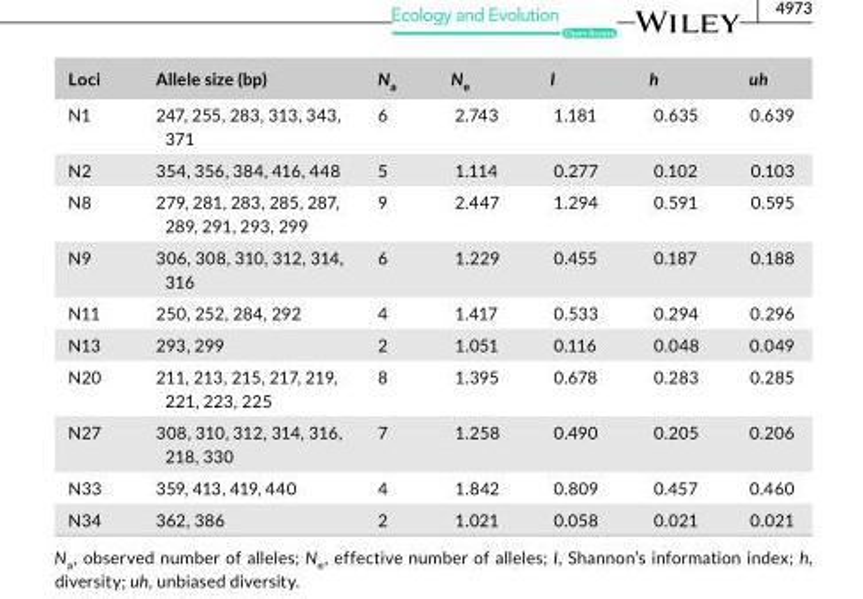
<table><thead><tr><td>Loci</td><td>Allele size (bp)</td><td>N<sub>a</sub></td><td>N<sub>e</sub></td><td>I</td><td>h</td><td>uh</td></tr></thead><tbody><tr><td>N1</td><td>247, 255, 283, 313, 343, 371</td><td>6</td><td>2.743</td><td>1.181</td><td>0.635</td><td>0.639</td></tr><tr><td>N2</td><td>354, 356, 384, 416, 448</td><td>5</td><td>1.114</td><td>0.277</td><td>0.102</td><td>0.103</td></tr><tr><td>N8</td><td>279, 281, 283, 285, 287, 289, 291, 293, 299</td><td>9</td><td>2.447</td><td>1.294</td><td>0.591</td><td>0.595</td></tr><tr><td>N9</td><td>306, 308, 310, 312, 314, 316</td><td>6</td><td>1.229</td><td>0.455</td><td>0.187</td><td>0.188</td></tr><tr><td>N11</td><td>250, 252, 284, 292</td><td>4</td><td>1.417</td><td>0.533</td><td>0.294</td><td>0.296</td></tr><tr><td>N13</td><td>293, 299</td><td>2</td><td>1.051</td><td>0.116</td><td>0.048</td><td>0.049</td></tr><tr><td>N20</td><td>211, 213, 215, 217, 219, 221, 223, 225</td><td>8</td><td>1.395</td><td>0.678</td><td>0.283</td><td>0.285</td></tr><tr><td>N27</td><td>308, 310, 312, 314, 316, 218, 330</td><td>7</td><td>1.258</td><td>0.490</td><td>0.205</td><td>0.206</td></tr><tr><td>N33</td><td>359, 413, 419, 440</td><td>4</td><td>1.842</td><td>0.809</td><td>0.457</td><td>0.460</td></tr><tr><td>N34</td><td>362, 386</td><td>2</td><td>1.021</td><td>0.058</td><td>0.021</td><td>0.021</td></tr></tbody></table>